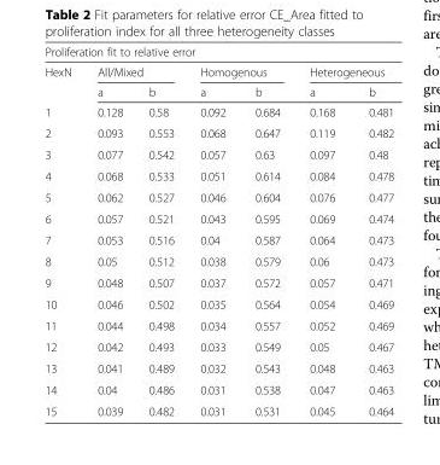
<table><thead><tr><td colspan="7">Proliferation fit to relative error</td></tr><tr><td rowspan="2">HexN</td><td colspan="2">All/Mixed</td><td colspan="2">Homogenous</td><td colspan="2">Heterogeneous</td></tr><tr><td>a</td><td>b</td><td>a</td><td>b</td><td>a</td><td>b</td></tr></thead><tbody><tr><td>1</td><td>0.128</td><td>0.58</td><td>0.092</td><td>0.684</td><td>0.168</td><td>0.481</td></tr><tr><td>2</td><td>0.093</td><td>0.553</td><td>0.068</td><td>0.647</td><td>0.119</td><td>0.482</td></tr><tr><td>3</td><td>0.077</td><td>0.542</td><td>0.057</td><td>0.63</td><td>0.097</td><td>0.48</td></tr><tr><td>4</td><td>0.068</td><td>0.533</td><td>0.051</td><td>0.614</td><td>0.084</td><td>0.478</td></tr><tr><td>5</td><td>0.062</td><td>0.527</td><td>0.046</td><td>0.604</td><td>0.076</td><td>0.477</td></tr><tr><td>6</td><td>0.057</td><td>0.521</td><td>0.043</td><td>0.595</td><td>0.069</td><td>0.474</td></tr><tr><td>7</td><td>0.053</td><td>0.516</td><td>0.04</td><td>0.587</td><td>0.064</td><td>0.473</td></tr><tr><td>8</td><td>0.05</td><td>0.512</td><td>0.038</td><td>0.579</td><td>0.06</td><td>0.473</td></tr><tr><td>9</td><td>0.048</td><td>0.507</td><td>0.037</td><td>0.572</td><td>0.057</td><td>0.471</td></tr><tr><td>10</td><td>0.046</td><td>0.502</td><td>0.035</td><td>0.564</td><td>0.054</td><td>0.469</td></tr><tr><td>11</td><td>0.044</td><td>0.498</td><td>0.034</td><td>0.557</td><td>0.052</td><td>0.469</td></tr><tr><td>12</td><td>0.042</td><td>0.493</td><td>0.033</td><td>0.549</td><td>0.05</td><td>0.467</td></tr><tr><td>13</td><td>0.041</td><td>0.489</td><td>0.032</td><td>0.543</td><td>0.048</td><td>0.463</td></tr><tr><td>14</td><td>0.04</td><td>0.486</td><td>0.031</td><td>0.538</td><td>0.047</td><td>0.463</td></tr><tr><td>15</td><td>0.039</td><td>0.482</td><td>0.031</td><td>0.531</td><td>0.045</td><td>0.464</td></tr></tbody></table>